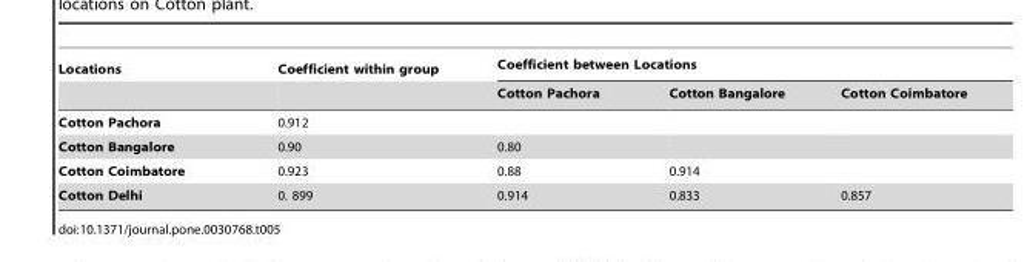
<table><thead><tr><td rowspan="2">Locations</td><td rowspan="2">Coefficient within group</td><td colspan="3">Coefficient between Locations</td></tr><tr><td>Cotton Pachora</td><td>Cotton Bangalore</td><td>Cotton Coimbatore</td></tr></thead><tbody><tr><td>Cotton Pachora</td><td>0.912</td><td></td><td></td><td></td></tr><tr><td>Cotton Bangalore</td><td>0.90</td><td>0.80</td><td></td><td></td></tr><tr><td>Cotton Coimbatore</td><td>0.923</td><td>0.88</td><td>0.914</td><td></td></tr><tr><td>Cotton Delhi</td><td>0. 899</td><td>0.914</td><td>0.833</td><td>0.857</td></tr></tbody></table>